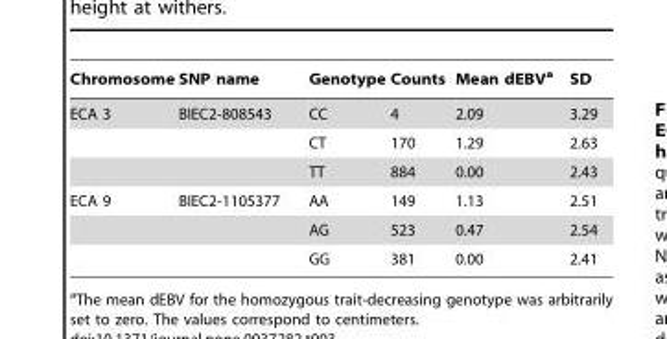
<table><thead><tr><td>Chromosome</td><td>SNP name</td><td>Genotype</td><td>Counts</td><td>Mean dEBV<sup>a</sup></td><td>SD</td></tr></thead><tbody><tr><td rowspan="3">ECA 3</td><td>BIEC2-808543</td><td>CC</td><td>4</td><td>2.09</td><td>3.29</td></tr><tr><td></td><td>CT</td><td>170</td><td>1.29</td><td>2.63</td></tr><tr><td></td><td>TT</td><td>884</td><td>0.00</td><td>2.43</td></tr><tr><td rowspan="3">ECA 9</td><td>BIEC2-1105377</td><td>AA</td><td>149</td><td>1.13</td><td>2.51</td></tr><tr><td></td><td>AG</td><td>523</td><td>0.47</td><td>2.54</td></tr><tr><td></td><td>GG</td><td>381</td><td>0.00</td><td>2.41</td></tr></tbody></table>